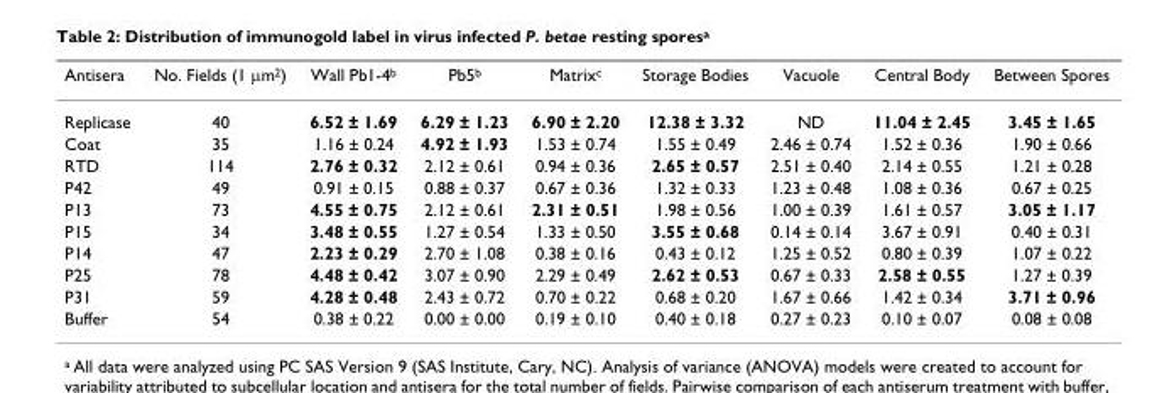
<table><thead><tr><td>Antisera</td><td>No. Fields (1 µm<sup>2</sup>)</td><td>Wall Pb1-4<sup>b</sup></td><td>Pb5<sup>b</sup></td><td>Matrix<sup>c</sup></td><td>Storage Bodies</td><td>Vacuole</td><td>Central Body</td><td>Between Spores</td></tr></thead><tbody><tr><td>Replicase</td><td>40</td><td>6.52 ± 1.69</td><td>6.29 ± 1.23</td><td>6.90 ± 2.20</td><td>12.38 ± 3.32</td><td>ND</td><td>11.04 ± 2.45</td><td>3.45 ± 1.65</td></tr><tr><td>Coat</td><td>35</td><td>1.16 ± 0.24</td><td>4.92 ± 1.93</td><td>1.53 ± 0.74</td><td>1.55 ± 0.49</td><td>2.46 ± 0.74</td><td>1.52 ± 0.36</td><td>1.90 ± 0.66</td></tr><tr><td>RTD</td><td>114</td><td>2.76 ± 0.32</td><td>2.12 ± 0.61</td><td>0.94 ± 0.36</td><td>2.65 ± 0.57</td><td>2.51 ± 0.40</td><td>2.14 ± 0.55</td><td>1.21 ± 0.28</td></tr><tr><td>P42</td><td>49</td><td>0.91 ± 0.15</td><td>0.88 ± 0.37</td><td>0.67 ± 0.36</td><td>1.32 ± 0.33</td><td>1.23 ± 0.48</td><td>1.08 ± 0.36</td><td>0.67 ± 0.25</td></tr><tr><td>P13</td><td>73</td><td>4.55 ± 0.75</td><td>2.12 ± 0.61</td><td>2.31 ± 0.51</td><td>1.98 ± 0.56</td><td>1.00 ± 0.39</td><td>1.61 ± 0.57</td><td>3.05 ± 1.17</td></tr><tr><td>P15</td><td>34</td><td>3.48 ± 0.55</td><td>1.27 ± 0.54</td><td>1.33 ± 0.50</td><td>3.55 ± 0.68</td><td>0.14 ± 0.14</td><td>3.67 ± 0.91</td><td>0.40 ± 0.31</td></tr><tr><td>P14</td><td>47</td><td>2.23 ± 0.29</td><td>2.70 ± 1.08</td><td>0.38 ± 0.16</td><td>0.43 ± 0.12</td><td>1.25 ± 0.52</td><td>0.80 ± 0.39</td><td>1.07 ± 0.22</td></tr><tr><td>P25</td><td>78</td><td>4.48 ± 0.42</td><td>3.07 ± 0.90</td><td>2.29 ± 0.49</td><td>2.62 ± 0.53</td><td>0.67 ± 0.33</td><td>2.58 ± 0.55</td><td>1.27 ± 0.39</td></tr><tr><td>P31</td><td>59</td><td>4.28 ± 0.48</td><td>2.43 ± 0.72</td><td>0.70 ± 0.22</td><td>0.68 ± 0.20</td><td>1.67 ± 0.66</td><td>1.42 ± 0.34</td><td>3.71 ± 0.96</td></tr><tr><td>Buffer</td><td>54</td><td>0.38 ± 0.22</td><td>0.00 ± 0.00</td><td>0.19 ± 0.10</td><td>0.40 ± 0.18</td><td>0.27 ± 0.23</td><td>0.10 ± 0.07</td><td>0.08 ± 0.08</td></tr></tbody></table>